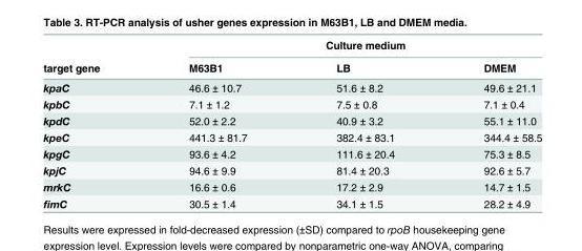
<table><thead><tr><td rowspan="2">target gene</td><td colspan="3">Culture medium</td></tr><tr><td>M63B1</td><td>LB</td><td>DMEM</td></tr></thead><tbody><tr><td>kpaC</td><td>46.6 ± 10.7</td><td>51.6 ± 8.2</td><td>49.6 ± 21.1</td></tr><tr><td>kpbC</td><td>7.1 ± 1.2</td><td>7.5 ± 0.8</td><td>7.1 ± 0.4</td></tr><tr><td>kpdC</td><td>52.0 ± 2.2</td><td>40.9 ± 3.2</td><td>55.1 ± 11.0</td></tr><tr><td>kpeC</td><td>441.3 ± 81.7</td><td>382.4 ± 83.1</td><td>344.4 ± 58.5</td></tr><tr><td>kpgC</td><td>93.6 ± 4.2</td><td>111.6 ± 20.4</td><td>75.3 ± 8.5</td></tr><tr><td>kpjC</td><td>94.6 ± 9.9</td><td>81.4 ± 20.3</td><td>92.6 ± 5.7</td></tr><tr><td>mrkC</td><td>16.6 ± 0.6</td><td>17.2 ± 2.9</td><td>14.7 ± 1.5</td></tr><tr><td>fimC</td><td>30.5 ± 1.4</td><td>34.1 ± 1.5</td><td>28.2 ± 4.9</td></tr></tbody></table>